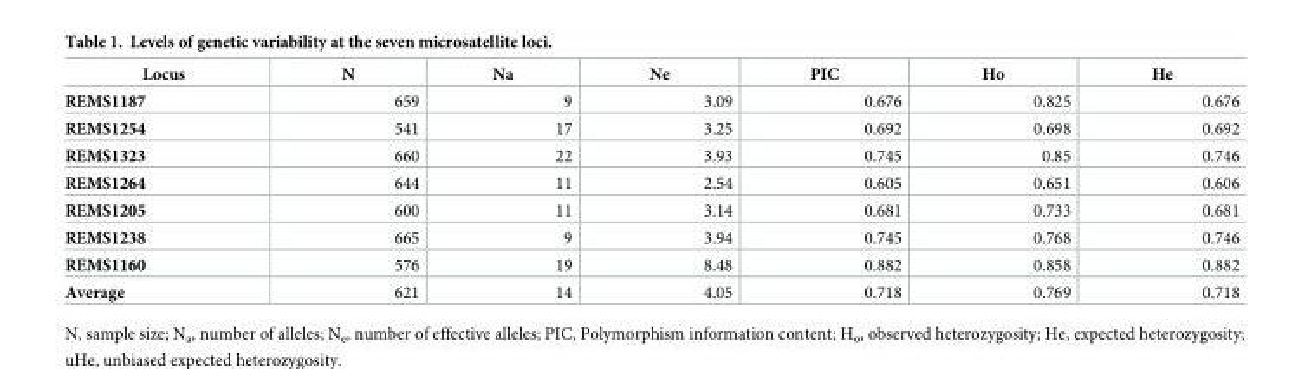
<table><thead><tr><td>Locus</td><td>N</td><td>Na</td><td>Ne</td><td>PIC</td><td>Ho</td><td>He</td></tr></thead><tbody><tr><td>REMS1187</td><td>659</td><td>9</td><td>3.09</td><td>0.676</td><td>0.825</td><td>0.676</td></tr><tr><td>REMS1254</td><td>541</td><td>17</td><td>3.25</td><td>0.692</td><td>0.698</td><td>0.692</td></tr><tr><td>REMS1323</td><td>660</td><td>22</td><td>3.93</td><td>0.745</td><td>0.85</td><td>0.746</td></tr><tr><td>REMS1264</td><td>644</td><td>11</td><td>2.54</td><td>0.605</td><td>0.651</td><td>0.606</td></tr><tr><td>REMS1205</td><td>600</td><td>11</td><td>3.14</td><td>0.681</td><td>0.733</td><td>0.681</td></tr><tr><td>REMS1238</td><td>665</td><td>9</td><td>3.94</td><td>0.745</td><td>0.768</td><td>0.746</td></tr><tr><td>REMS1160</td><td>576</td><td>19</td><td>8.48</td><td>0.882</td><td>0.858</td><td>0.882</td></tr><tr><td>Average</td><td>621</td><td>14</td><td>4.05</td><td>0.718</td><td>0.769</td><td>0.718</td></tr></tbody></table>